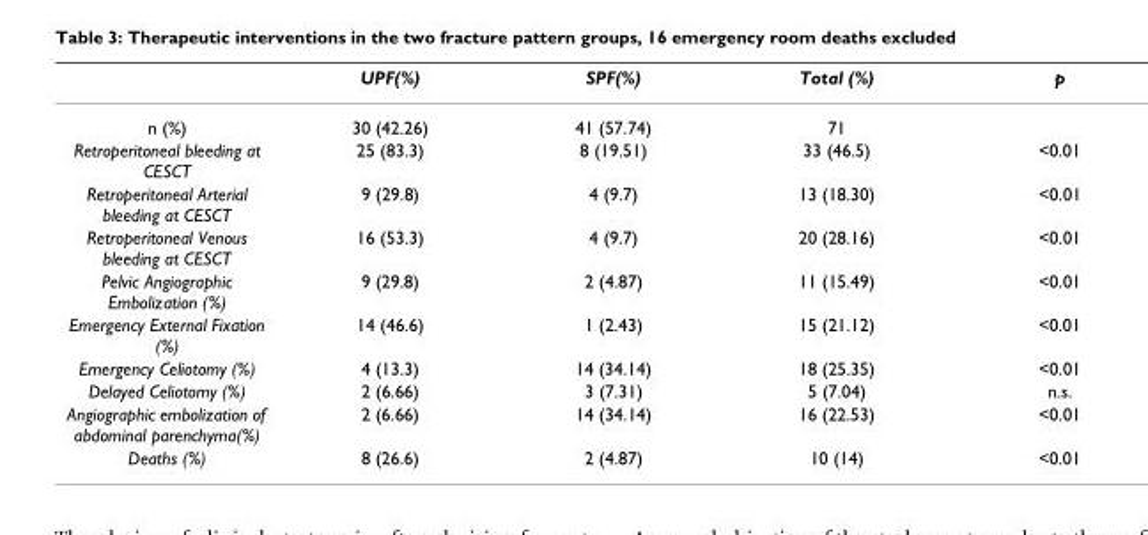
<table><thead><tr><td></td><td>UPF(%)</td><td>SPF(%)</td><td>Total (%)</td><td>p</td></tr></thead><tbody><tr><td>n (%)</td><td>30 (42.26)</td><td>41 (57.74)</td><td>71</td><td></td></tr><tr><td>Retroperitoneal bleeding at CESCT</td><td>25 (83.3)</td><td>8 (19.51)</td><td>33 (46.5)</td><td>&lt;0.01</td></tr><tr><td>Retroperitoneal Arterial bleeding at CESCT</td><td>9 (29.8)</td><td>4 (9.7)</td><td>13 (18.30)</td><td>&lt;0.01</td></tr><tr><td>Retroperitoneal Venous bleeding at CESCT</td><td>16 (53.3)</td><td>4 (9.7)</td><td>20 (28.16)</td><td>&lt;0.01</td></tr><tr><td>Pelvic Angiographic Embolization (%)</td><td>9 (29.8)</td><td>2 (4.87)</td><td>11 (15.49)</td><td>&lt;0.01</td></tr><tr><td>Emergency External Fixation (%)</td><td>14 (46.6)</td><td>1 (2.43)</td><td>15 (21.12)</td><td>&lt;0.01</td></tr><tr><td>Emergency Celiotomy (%)</td><td>4 (13.3)</td><td>14 (34.14)</td><td>18 (25.35)</td><td>&lt;0.01</td></tr><tr><td>Delayed Celiotomy (%)</td><td>2 (6.66)</td><td>3 (7.31)</td><td>5 (7.04)</td><td>n.s.</td></tr><tr><td>Angiographic embolization of abdominal parenchyma(%)</td><td>2 (6.66)</td><td>14 (34.14)</td><td>16 (22.53)</td><td>&lt;0.01</td></tr><tr><td>Deaths (%)</td><td>8 (26.6)</td><td>2 (4.87)</td><td>10 (14)</td><td>&lt;0.01</td></tr></tbody></table>